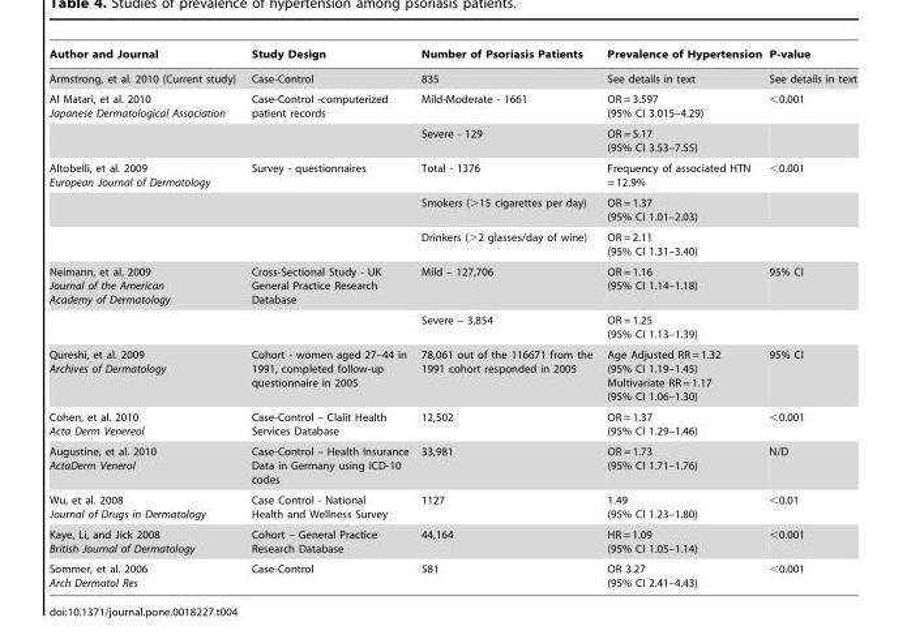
<table><thead><tr><td>Author and Journal</td><td>Study Design</td><td>Number of Psoriasis Patients</td><td>Prevalence of Hypertension</td><td>P-value</td></tr></thead><tbody><tr><td>Armstrong, et al. 2010 (Current study)</td><td>Case-Control</td><td>835</td><td>See details in text</td><td>See details in text</td></tr><tr><td rowspan="2">Al Matari, et al. 2010 Japanese Dermatological Association</td><td>Case-Control -computerized patient records</td><td>Mild-Moderate - 1661</td><td>OR = 3.597 (95% CI 3.015–4.29)</td><td>&lt;0.001</td></tr><tr><td></td><td>Severe - 129</td><td>OR = 5.17 (95% CI 3.53–7.55)</td><td></td></tr><tr><td rowspan="3">Altobelli, et al. 2009 European Journal of Dermatology</td><td>Survey - questionnaires</td><td>Total - 1376</td><td>Frequency of associated HTN = 12.9%</td><td>&lt;0.001</td></tr><tr><td></td><td>Smokers (&gt;15 cigarettes per day)</td><td>OR = 1.37 (95% CI 1.01–2.03)</td><td></td></tr><tr><td></td><td>Drinkers (&gt;2 glasses/day of wine)</td><td>OR = 2.11 (95% CI 1.31–3.40)</td><td></td></tr><tr><td rowspan="2">Neimann, et al. 2009 Journal of the American Academy of Dermatology</td><td>Cross-Sectional Study - UK General Practice Research Database</td><td>Mild – 127,706</td><td>OR = 1.16 (95% CI 1.14–1.18)</td><td>95% CI</td></tr><tr><td></td><td>Severe – 3,854</td><td>OR = 1.25 (95% CI 1.13–1.39)</td><td></td></tr><tr><td>Qureshi, et al. 2009 Archives of Dermatology</td><td>Cohort - women aged 27–44 in 1991, completed follow-up questionnaire in 2005</td><td>78,061 out of the 116671 from the 1991 cohort responded in 2005</td><td>Age Adjusted RR = 1.32 (95% CI 1.19–1.45) Multivariate RR = 1.17 (95% CI 1.06–1.30)</td><td>95% CI</td></tr><tr><td>Cohen, et al. 2010 Acta Derm Venereol</td><td>Case-Control – Clalit Health Services Database</td><td>12,502</td><td>OR = 1.37 (95% CI 1.29–1.46)</td><td>&lt;0.001</td></tr><tr><td>Augustine, et al. 2010 ActaDerm Venerol</td><td>Case-Control – Health Insurance Data in Germany using ICD-10 codes</td><td>33,981</td><td>OR = 1.73 (95% CI 1.71–1.76)</td><td>N/D</td></tr><tr><td>Wu, et al. 2008 Journal of Drugs in Dermatology</td><td>Case Control - National Health and Wellness Survey</td><td>1127</td><td>1.49 (95% CI 1.23–1.80)</td><td>&lt;0.01</td></tr><tr><td>Kaye, Li, and Jick 2008 British Journal of Dermatology</td><td>Cohort – General Practice Research Database</td><td>44,164</td><td>HR = 1.09 (95% CI 1.05–1.14)</td><td>&lt;0.001</td></tr><tr><td>Sommer, et al. 2006 Arch Dermatol Res</td><td>Case-Control</td><td>581</td><td>OR 3.27 (95% CI 2.41–4.43)</td><td>&lt;0.001</td></tr></tbody></table>